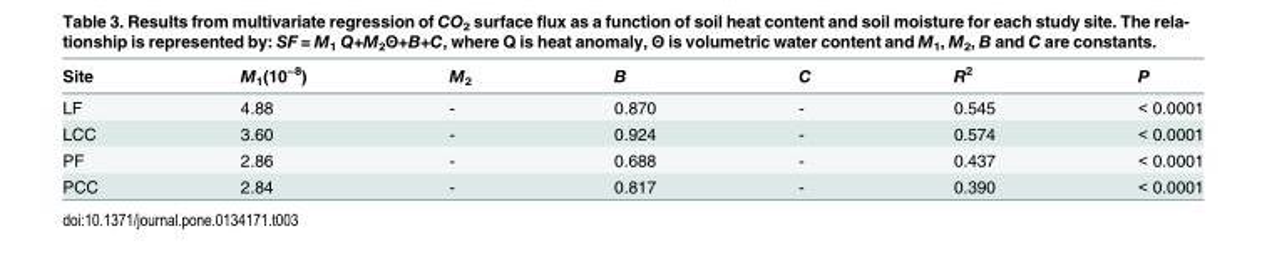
<table><thead><tr><td>Site</td><td>M<sub>1</sub>(10<sup>−8</sup>)</td><td>M<sub>2</sub></td><td>B</td><td>C</td><td>R<sup>2</sup></td><td>P</td></tr></thead><tbody><tr><td>LF</td><td>4.88</td><td>-</td><td>0.870</td><td>-</td><td>0.545</td><td>&lt; 0.0001</td></tr><tr><td>LCC</td><td>3.60</td><td>-</td><td>0.924</td><td>-</td><td>0.574</td><td>&lt; 0.0001</td></tr><tr><td>PF</td><td>2.86</td><td>-</td><td>0.688</td><td>-</td><td>0.437</td><td>&lt; 0.0001</td></tr><tr><td>PCC</td><td>2.84</td><td>-</td><td>0.817</td><td>-</td><td>0.390</td><td>&lt; 0.0001</td></tr></tbody></table>